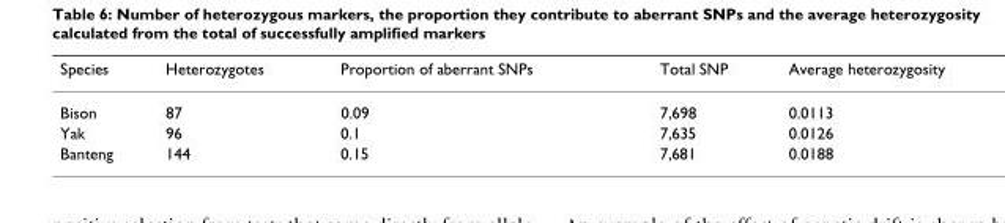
<table><thead><tr><td>Species</td><td>Heterozygotes</td><td>Proportion of aberrant SNPs</td><td>Total SNP</td><td>Average heterozygosity</td></tr></thead><tbody><tr><td>Bison</td><td>87</td><td>0.09</td><td>7,698</td><td>0.0113</td></tr><tr><td>Yak</td><td>96</td><td>0.1</td><td>7,635</td><td>0.0126</td></tr><tr><td>Banteng</td><td>144</td><td>0.15</td><td>7,681</td><td>0.0188</td></tr></tbody></table>